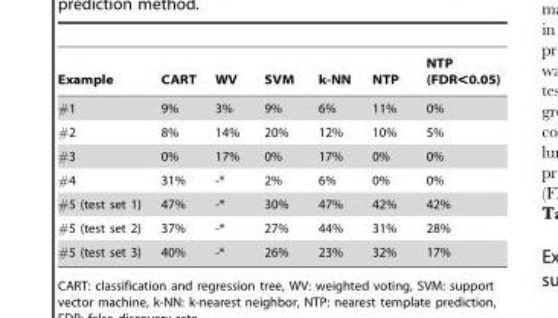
<table><thead><tr><td>Example</td><td>CART</td><td>WV</td><td>SVM</td><td>k-NN</td><td>NTP</td><td>NTP (FDR&lt;0.05)</td></tr></thead><tbody><tr><td>#1</td><td>9%</td><td>3%</td><td>9%</td><td>6%</td><td>11%</td><td>0%</td></tr><tr><td>#2</td><td>8%</td><td>14%</td><td>20%</td><td>12%</td><td>10%</td><td>5%</td></tr><tr><td>#3</td><td>0%</td><td>17%</td><td>0%</td><td>17%</td><td>0%</td><td>0%</td></tr><tr><td>#4</td><td>31%</td><td>-*</td><td>2%</td><td>6%</td><td>0%</td><td>0%</td></tr><tr><td>#5 (test set 1)</td><td>47%</td><td>-*</td><td>30%</td><td>47%</td><td>42%</td><td>42%</td></tr><tr><td>#5 (test set 2)</td><td>37%</td><td>-*</td><td>27%</td><td>44%</td><td>31%</td><td>28%</td></tr><tr><td>#5 (test set 3)</td><td>40%</td><td>-*</td><td>26%</td><td>23%</td><td>32%</td><td>17%</td></tr></tbody></table>